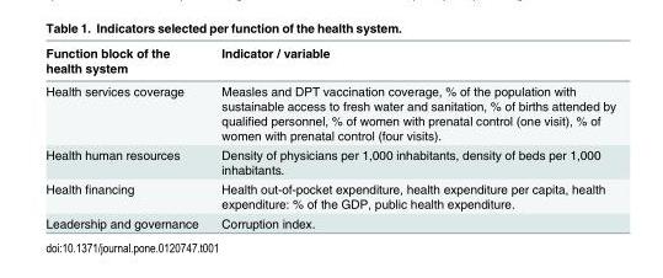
<table><thead><tr><td>Function block of the health system</td><td>Indicator / variable</td></tr></thead><tbody><tr><td>Health services coverage</td><td>Measles and DPT vaccination coverage, % of the population with sustainable access to fresh water and sanitation, % of births attended by qualified personnel, % of women with prenatal control (one visit), % of women with prenatal control (four visits).</td></tr><tr><td>Health human resources</td><td>Density of physicians per 1,000 inhabitants, density of beds per 1,000 inhabitants.</td></tr><tr><td>Health financing</td><td>Health out-of-pocket expenditure, health expenditure per capita, health expenditure: % of the GDP, public health expenditure.</td></tr><tr><td>Leadership and governance</td><td>Corruption index.</td></tr></tbody></table>